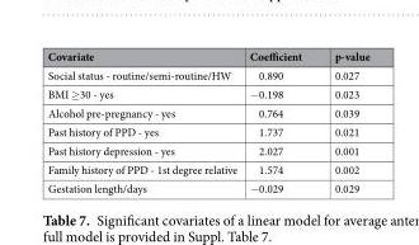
<table><thead><tr><td>Covariate</td><td>Coefficient</td><td>p-value</td></tr></thead><tbody><tr><td>Social status - routine/semi-routine/HW</td><td>0.890</td><td>0.027</td></tr><tr><td>BMI ≥30 - yes</td><td>−0.198</td><td>0.023</td></tr><tr><td>Alcohol pre-pregnancy - yes</td><td>0.764</td><td>0.039</td></tr><tr><td>Past history of PPD - yes</td><td>1.737</td><td>0.021</td></tr><tr><td>Past history depression - yes</td><td>2.027</td><td>0.001</td></tr><tr><td>Family history of PPD - 1st degree relative</td><td>1.574</td><td>0.002</td></tr><tr><td>Gestation length/days</td><td>−0.029</td><td>0.029</td></tr></tbody></table>